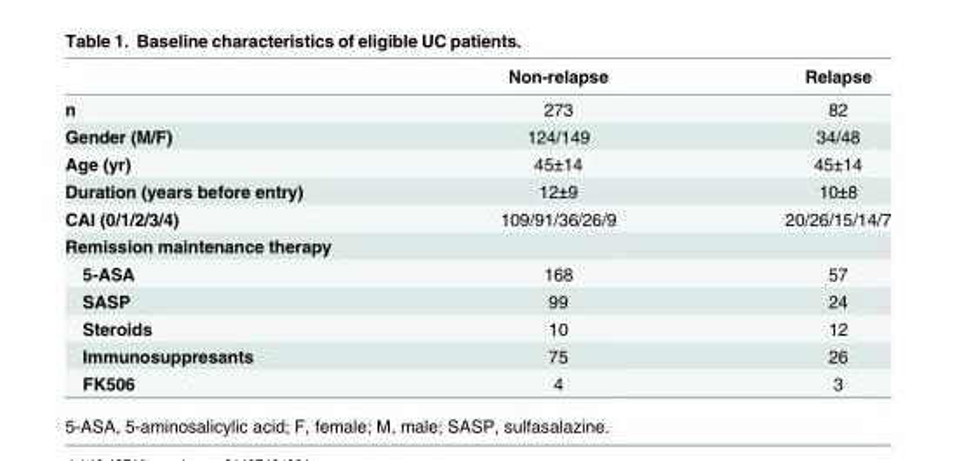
<table><thead><tr><td></td><td>Non-relapse</td><td>Relapse</td></tr></thead><tbody><tr><td>n</td><td>273</td><td>82</td></tr><tr><td>Gender (M/F)</td><td>124/149</td><td>34/48</td></tr><tr><td>Age (yr)</td><td>45±14</td><td>45±14</td></tr><tr><td>Duration (years before entry)</td><td>12±9</td><td>10±8</td></tr><tr><td>CAI (0/1/2/3/4)</td><td>109/91/36/26/9</td><td>20/26/15/14/7</td></tr><tr><td colspan="3">Remission maintenance therapy</td></tr><tr><td>5-ASA</td><td>168</td><td>57</td></tr><tr><td>SASP</td><td>99</td><td>24</td></tr><tr><td>Steroids</td><td>10</td><td>12</td></tr><tr><td>Immunosuppresants</td><td>75</td><td>26</td></tr><tr><td>FK506</td><td>4</td><td>3</td></tr></tbody></table>